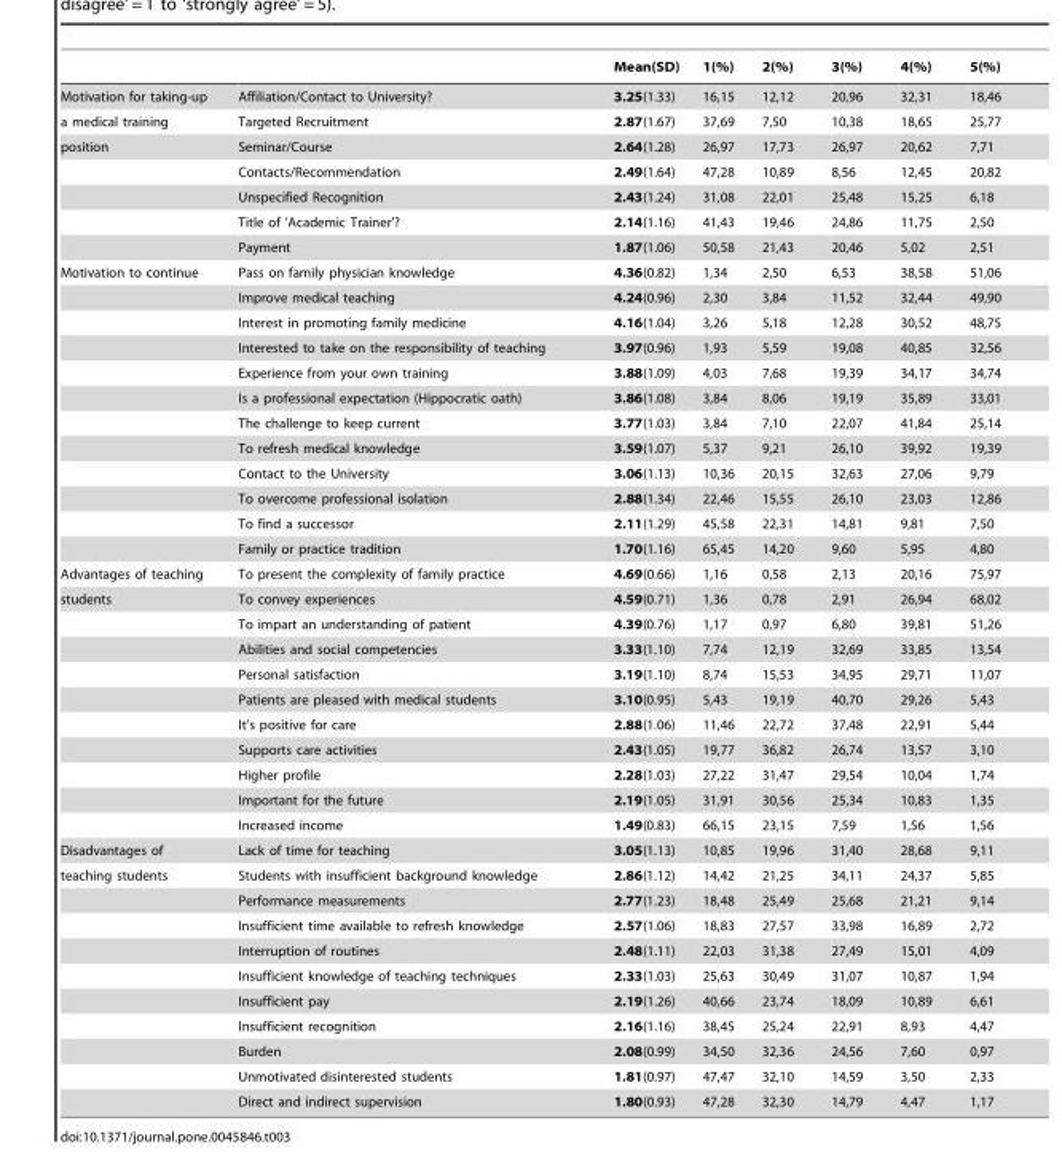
<table><thead><tr><td></td><td></td><td>Mean(SD)</td><td>1(%)</td><td>2(%)</td><td>3(%)</td><td>4(%)</td><td>5(%)</td></tr></thead><tbody><tr><td>Motivation for taking-up</td><td>Affiliation/Contact to University?</td><td>3.25(1.33)</td><td>16,15</td><td>12,12</td><td>20,96</td><td>32,31</td><td>18,46</td></tr><tr><td>a medical training</td><td>Targeted Recruitment</td><td>2.87(1.67)</td><td>37,69</td><td>7,50</td><td>10,38</td><td>18,65</td><td>25,77</td></tr><tr><td rowspan="5">position</td><td>Seminar/Course</td><td>2.64(1.28)</td><td>26,97</td><td>17,73</td><td>26,97</td><td>20,62</td><td>7,71</td></tr><tr><td>Contacts/Recommendation</td><td>2.49(1.64)</td><td>47,28</td><td>10,89</td><td>8,56</td><td>12,45</td><td>20,82</td></tr><tr><td>Unspecified Recognition</td><td>2.43(1.24)</td><td>31,08</td><td>22,01</td><td>25,48</td><td>15,25</td><td>6,18</td></tr><tr><td>Title of ‘Academic Trainer’?</td><td>2.14(1.16)</td><td>41,43</td><td>19,46</td><td>24,86</td><td>11,75</td><td>2,50</td></tr><tr><td>Payment</td><td>1.87(1.06)</td><td>50,58</td><td>21,43</td><td>20,46</td><td>5,02</td><td>2,51</td></tr><tr><td rowspan="12">Motivation to continue</td><td>Pass on family physician knowledge</td><td>4.36(0.82)</td><td>1,34</td><td>2,50</td><td>6,53</td><td>38,58</td><td>51,06</td></tr><tr><td>Improve medical teaching</td><td>4.24(0.96)</td><td>2,30</td><td>3,84</td><td>11,52</td><td>32,44</td><td>49,90</td></tr><tr><td>Interest in promoting family medicine</td><td>4.16(1.04)</td><td>3,26</td><td>5,18</td><td>12,28</td><td>30,52</td><td>48,75</td></tr><tr><td>Interested to take on the responsibility of teaching</td><td>3.97(0.96)</td><td>1,93</td><td>5,59</td><td>19,08</td><td>40,85</td><td>32,56</td></tr><tr><td>Experience from your own training</td><td>3.88(1.09)</td><td>4,03</td><td>7,68</td><td>19,39</td><td>34,17</td><td>34,74</td></tr><tr><td>Is a professional expectation (Hippocratic oath)</td><td>3.86(1.08)</td><td>3,84</td><td>8,06</td><td>19,19</td><td>35,89</td><td>33,01</td></tr><tr><td>The challenge to keep current</td><td>3.77(1.03)</td><td>3,84</td><td>7,10</td><td>22,07</td><td>41,84</td><td>25,14</td></tr><tr><td>To refresh medical knowledge</td><td>3.59(1.07)</td><td>5,37</td><td>9,21</td><td>26,10</td><td>39,92</td><td>19,39</td></tr><tr><td>Contact to the University</td><td>3.06(1.13)</td><td>10,36</td><td>20,15</td><td>32,63</td><td>27,06</td><td>9,79</td></tr><tr><td>To overcome professional isolation</td><td>2.88(1.34)</td><td>22,46</td><td>15,55</td><td>26,10</td><td>23,03</td><td>12,86</td></tr><tr><td>To find a successor</td><td>2.11(1.29)</td><td>45,58</td><td>22,31</td><td>14,81</td><td>9,81</td><td>7,50</td></tr><tr><td>Family or practice tradition</td><td>1.70(1.16)</td><td>65,45</td><td>14,20</td><td>9,60</td><td>5,95</td><td>4,80</td></tr><tr><td>Advantages of teaching</td><td>To present the complexity of family practice</td><td>4.69(0.66)</td><td>1,16</td><td>0,58</td><td>2,13</td><td>20,16</td><td>75,97</td></tr><tr><td rowspan="10">students</td><td>To convey experiences</td><td>4.59(0.71)</td><td>1,36</td><td>0,78</td><td>2,91</td><td>26,94</td><td>68,02</td></tr><tr><td>To impart an understanding of patient</td><td>4.39(0.76)</td><td>1,17</td><td>0,97</td><td>6,80</td><td>39,81</td><td>51,26</td></tr><tr><td>Abilities and social competencies</td><td>3.33(1.10)</td><td>7,74</td><td>12,19</td><td>32,69</td><td>33,85</td><td>13,54</td></tr><tr><td>Personal satisfaction</td><td>3.19(1.10)</td><td>8,74</td><td>15,53</td><td>34,95</td><td>29,71</td><td>11,07</td></tr><tr><td>Patients are pleased with medical students</td><td>3.10(0.95)</td><td>5,43</td><td>19,19</td><td>40,70</td><td>29,26</td><td>5,43</td></tr><tr><td>It’s positive for care</td><td>2.88(1.06)</td><td>11,46</td><td>22,72</td><td>37,48</td><td>22,91</td><td>5,44</td></tr><tr><td>Supports care activities</td><td>2.43(1.05)</td><td>19,77</td><td>36,82</td><td>26,74</td><td>13,57</td><td>3,10</td></tr><tr><td>Higher profile</td><td>2.28(1.03)</td><td>27,22</td><td>31,47</td><td>29,54</td><td>10,04</td><td>1,74</td></tr><tr><td>Important for the future</td><td>2.19(1.05)</td><td>31,91</td><td>30,56</td><td>25,34</td><td>10,83</td><td>1,35</td></tr><tr><td>Increased income</td><td>1.49(0.83)</td><td>66,15</td><td>23,15</td><td>7,59</td><td>1,56</td><td>1,56</td></tr><tr><td>Disadvantages of</td><td>Lack of time for teaching</td><td>3.05(1.13)</td><td>10,85</td><td>19,96</td><td>31,40</td><td>28,68</td><td>9,11</td></tr><tr><td rowspan="10">teaching students</td><td>Students with insufficient background knowledge</td><td>2.86(1.12)</td><td>14,42</td><td>21,25</td><td>34,11</td><td>24,37</td><td>5,85</td></tr><tr><td>Performance measurements</td><td>2.77(1.23)</td><td>18,48</td><td>25,49</td><td>25,68</td><td>21,21</td><td>9,14</td></tr><tr><td>Insufficient time available to refresh knowledge</td><td>2.57(1.06)</td><td>18,83</td><td>27,57</td><td>33,98</td><td>16,89</td><td>2,72</td></tr><tr><td>Interruption of routines</td><td>2.48(1.11)</td><td>22,03</td><td>31,38</td><td>27,49</td><td>15,01</td><td>4,09</td></tr><tr><td>Insufficient knowledge of teaching techniques</td><td>2.33(1.03)</td><td>25,63</td><td>30,49</td><td>31,07</td><td>10,87</td><td>1,94</td></tr><tr><td>Insufficient pay</td><td>2.19(1.26)</td><td>40,66</td><td>23,74</td><td>18,09</td><td>10,89</td><td>6,61</td></tr><tr><td>Insufficient recognition</td><td>2.16(1.16)</td><td>38,45</td><td>25,24</td><td>22,91</td><td>8,93</td><td>4,47</td></tr><tr><td>Burden</td><td>2.08(0.99)</td><td>34,50</td><td>32,36</td><td>24,56</td><td>7,60</td><td>0,97</td></tr><tr><td>Unmotivated disinterested students</td><td>1.81(0.97)</td><td>47,47</td><td>32,10</td><td>14,59</td><td>3,50</td><td>2,33</td></tr><tr><td>Direct and indirect supervision</td><td>1.80(0.93)</td><td>47,28</td><td>32,30</td><td>14,79</td><td>4,47</td><td>1,17</td></tr></tbody></table>